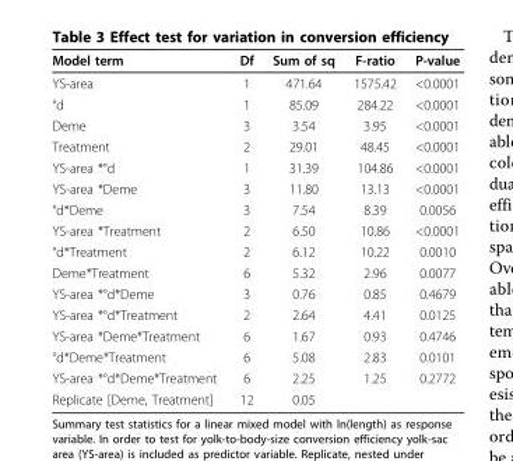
<table><thead><tr><td>Model term</td><td>Df</td><td>Sum of sq</td><td>F-ratio</td><td>P-value</td></tr></thead><tbody><tr><td>YS-area</td><td>1</td><td>471.64</td><td>1575.42</td><td>&lt;0.0001</td></tr><tr><td>°d</td><td>1</td><td>85.09</td><td>284.22</td><td>&lt;0.0001</td></tr><tr><td>Deme</td><td>3</td><td>3.54</td><td>3.95</td><td>&lt;0.0001</td></tr><tr><td>Treatment</td><td>2</td><td>29.01</td><td>48.45</td><td>&lt;0.0001</td></tr><tr><td>YS-area *°d</td><td>1</td><td>31.39</td><td>104.86</td><td>&lt;0.0001</td></tr><tr><td>YS-area *Deme</td><td>3</td><td>11.80</td><td>13.13</td><td>&lt;0.0001</td></tr><tr><td>°d*Deme</td><td>3</td><td>7.54</td><td>8.39</td><td>0.0056</td></tr><tr><td>YS-area *Treatment</td><td>2</td><td>6.50</td><td>10.86</td><td>&lt;0.0001</td></tr><tr><td>°d*Treatment</td><td>2</td><td>6.12</td><td>10.22</td><td>0.0010</td></tr><tr><td>Deme*Treatment</td><td>6</td><td>5.32</td><td>2.96</td><td>0.0077</td></tr><tr><td>YS-area *°d*Deme</td><td>3</td><td>0.76</td><td>0.85</td><td>0.4679</td></tr><tr><td>YS-area *°d*Treatment</td><td>2</td><td>2.64</td><td>4.41</td><td>0.0125</td></tr><tr><td>YS-area *Deme*Treatment</td><td>6</td><td>1.67</td><td>0.93</td><td>0.4746</td></tr><tr><td>°d*Deme*Treatment</td><td>6</td><td>5.08</td><td>2.83</td><td>0.0101</td></tr><tr><td>YS-area *°d*Deme*Treatment</td><td>6</td><td>2.25</td><td>1.25</td><td>0.2772</td></tr><tr><td>Replicate [Deme, Treatment]</td><td>12</td><td>0.05</td><td></td><td></td></tr></tbody></table>